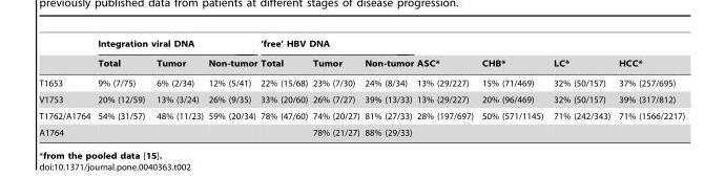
<table><thead><tr><td rowspan="2"></td><td colspan="3">Integration viral DNA</td><td colspan="3">‘free’ HBV DNA</td><td rowspan="2">ASC*</td><td rowspan="2">CHB*</td><td rowspan="2">LC*</td><td rowspan="2">HCC*</td></tr><tr><td>Total</td><td>Tumor</td><td>Non-tumor</td><td>Total</td><td>Tumor</td><td>Non-tumor</td></tr></thead><tbody><tr><td>T1653</td><td>9% (7/75)</td><td>6% (2/34)</td><td>12% (5/41)</td><td>22% (15/68)</td><td>23% (7/30)</td><td>24% (8/34)</td><td>13% (29/227)</td><td>15% (71/469)</td><td>32% (50/157)</td><td>37% (257/695)</td></tr><tr><td>V1753</td><td>20% (12/59)</td><td>13% (3/24)</td><td>26% (9/35)</td><td>33% (20/60)</td><td>26% (7/27)</td><td>39% (13/33)</td><td>13% (29/227)</td><td>20% (96/469)</td><td>32% (50/157)</td><td>39% (317/812)</td></tr><tr><td>T1762/A1764</td><td>54% (31/57)</td><td>48% (11/23)</td><td>59% (20/34)</td><td>78% (47/60)</td><td>74% (20/27)</td><td>81% (27/33)</td><td>28% (197/697)</td><td>50% (571/1145)</td><td>71% (242/343)</td><td>71% (1566/2217)</td></tr><tr><td>A1764</td><td></td><td></td><td></td><td></td><td>78% (21/27)</td><td>88% (29/33)</td><td></td><td></td><td></td><td></td></tr></tbody></table>